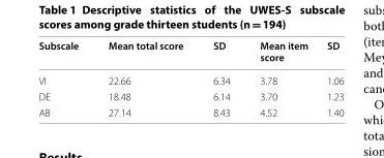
<table><thead><tr><td>Subscale</td><td>Mean total score</td><td>SD</td><td>Mean item score</td><td>SD</td></tr></thead><tbody><tr><td>VI</td><td>22.66</td><td>6.34</td><td>3.78</td><td>1.06</td></tr><tr><td>DE</td><td>18.48</td><td>6.14</td><td>3.70</td><td>1.23</td></tr><tr><td>AB</td><td>27.14</td><td>8.43</td><td>4.52</td><td>1.40</td></tr></tbody></table>